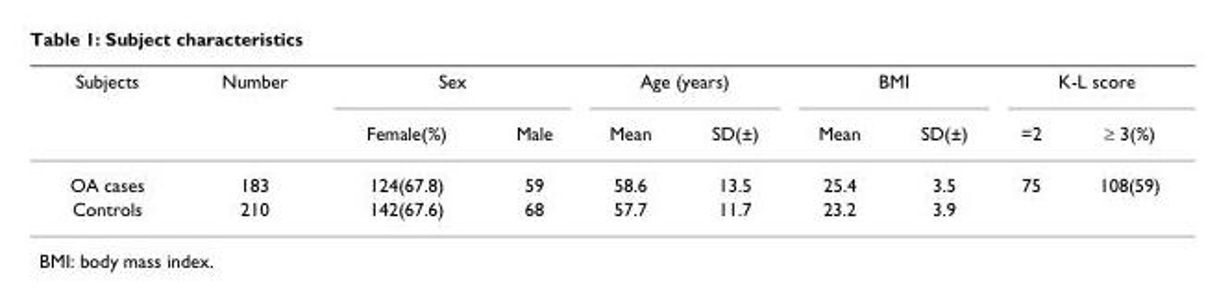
<table><thead><tr><td rowspan="2">Subjects</td><td rowspan="2">Number</td><td colspan="2">Sex</td><td colspan="2">Age (years)</td><td colspan="2">BMI</td><td colspan="2">K-L score</td></tr><tr><td>Female(%)</td><td>Male</td><td>Mean</td><td>SD(±)</td><td>Mean</td><td>SD(±)</td><td>=2</td><td>≥ 3(%)</td></tr></thead><tbody><tr><td>OA cases</td><td>183</td><td>124(67.8)</td><td>59</td><td>58.6</td><td>13.5</td><td>25.4</td><td>3.5</td><td>75</td><td>108(59)</td></tr><tr><td>Controls</td><td>210</td><td>142(67.6)</td><td>68</td><td>57.7</td><td>11.7</td><td>23.2</td><td>3.9</td><td></td><td></td></tr></tbody></table>